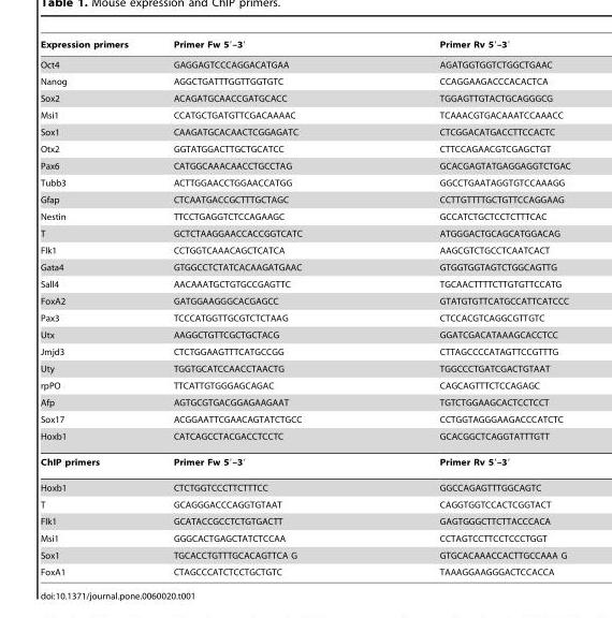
<table><thead><tr><td>Expression primers</td><td>Primer Fw 5′–3′</td><td>Primer Rv 5′–3′</td></tr></thead><tbody><tr><td>Oct4</td><td>GAGGAGTCCCAGGACATGAA</td><td>AGATGGTGGTCTGGCTGAAC</td></tr><tr><td>Nanog</td><td>AGGCTGATTTGGTTGGTGTC</td><td>CCAGGAAGACCCACACTCA</td></tr><tr><td>Sox2</td><td>ACAGATGCAACCGATGCACC</td><td>TGGAGTTGTACTGCAGGGCG</td></tr><tr><td>Msi1</td><td>CCATGCTGATGTTCGACAAAAC</td><td>TCAAACGTGACAAATCCAAACC</td></tr><tr><td>Sox1</td><td>CAAGATGCACAACTCGGAGATC</td><td>CTCGGACATGACCTTCCACTC</td></tr><tr><td>Otx2</td><td>GGTATGGACTTGCTGCATCC</td><td>CTTCCAGAACGTCGAGCTGT</td></tr><tr><td>Pax6</td><td>CATGGCAAACAACCTGCCTAG</td><td>GCACGAGTATGAGGAGGTCTGAC</td></tr><tr><td>Tubb3</td><td>ACTTGGAACCTGGAACCATGG</td><td>GGCCTGAATAGGTGTCCAAAGG</td></tr><tr><td>Gfap</td><td>CTCAATGACCGCTTTGCTAGC</td><td>CCTTGTTTTGCTGTTCCAGGAAG</td></tr><tr><td>Nestin</td><td>TTCCTGAGGTCTCCAGAAGC</td><td>GCCATCTGCTCCTCTTTCAC</td></tr><tr><td>T</td><td>GCTCTAAGGAACCACCGGTCATC</td><td>ATGGGACTGCAGCATGGACAG</td></tr><tr><td>Flk1</td><td>CCTGGTCAAACAGCTCATCA</td><td>AAGCGTCTGCCTCAATCACT</td></tr><tr><td>Gata4</td><td>GTGGCCTCTATCACAAGATGAAC</td><td>GTGGTGGTAGTCTGGCAGTTG</td></tr><tr><td>Sall4</td><td>AACAAATGCTGTGCCGAGTTC</td><td>TGCAACTTTTCTTGTGTTCCATG</td></tr><tr><td>FoxA2</td><td>GATGGAAGGGCACGAGCC</td><td>GTATGTGTTCATGCCATTCATCCC</td></tr><tr><td>Pax3</td><td>TCCCATGGTTGCGTCTCTAAG</td><td>CTCCACGTCAGGCGTTGTC</td></tr><tr><td>Utx</td><td>AAGGCTGTTCGCTGCTACG</td><td>GGATCGACATAAAGCACCTCC</td></tr><tr><td>Jmjd3</td><td>CTCTGGAAGTTTCATGCCGG</td><td>CTTAGCCCCATAGTTCCGTTTG</td></tr><tr><td>Uty</td><td>TGGTGCATCCAACCTAACTG</td><td>TGGCCCTGATCGACTGTAAT</td></tr><tr><td>rpPO</td><td>TTCATTGTGGGAGCAGAC</td><td>CAGCAGTTTCTCCAGAGC</td></tr><tr><td>Afp</td><td>AGTGCGTGACGGAGAAGAAT</td><td>TGTCTGGAAGCACTCCTCCT</td></tr><tr><td>Sox17</td><td>ACGGAATTCGAACAGTATCTGCC</td><td>CCTGGTAGGGAAGACCCATCTC</td></tr><tr><td>Hoxb1</td><td>CATCAGCCTACGACCTCCTC</td><td>GCACGGCTCAGGTATTTGTT</td></tr><tr><td>ChIP primers</td><td>Primer Fw 5′–3′</td><td>Primer Rv 5′–3′</td></tr><tr><td>Hoxb1</td><td>CTCTGGTCCCTTCTTTCC</td><td>GGCCAGAGTTTGGCAGTC</td></tr><tr><td>T</td><td>GCAGGGACCCAGGTGTAAT</td><td>CAGGTGGTCCACTCGGTACT</td></tr><tr><td>Flk1</td><td>GCATACCGCCTCTGTGACTT</td><td>GAGTGGGCTTCTTACCCACA</td></tr><tr><td>Msi1</td><td>GGGCACTGAGCTATCTCCAA</td><td>CCTAGTCCTTCCTCCCTGGT</td></tr><tr><td>Sox1</td><td>TGCACCTGTTTGCACAGTTCA G</td><td>GTGCACAAACCACTTGCCAAA G</td></tr><tr><td>FoxA1</td><td>CTAGCCCATCTCCTGCTGTC</td><td>TAAAGGAAGGGACTCCACCA</td></tr></tbody></table>